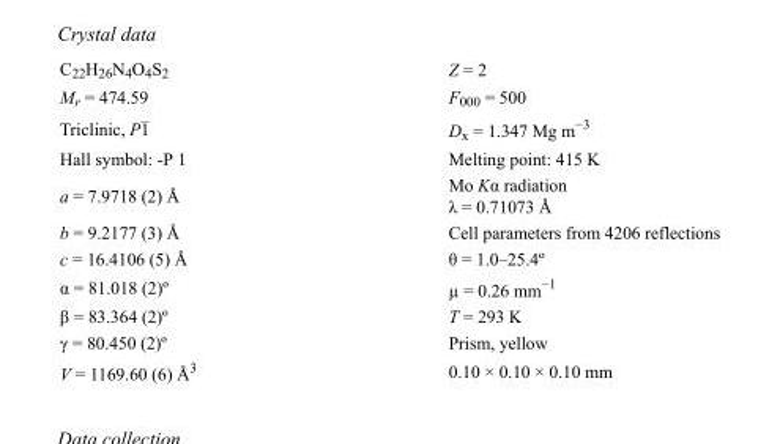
<table><tbody><tr><td>C<sub>22</sub>H<sub>26</sub>N<sub>4</sub>O<sub>4</sub>S<sub>2</sub></td><td>Z = 2</td></tr><tr><td>M<sub>r</sub> = 474.59</td><td>F000 = 500</td></tr><tr><td>Triclinic, P1</td><td>D<sub>x</sub> = 1.347 Mg m<sup>−3</sup></td></tr><tr><td>Hall symbol: -P 1</td><td>Melting point: 415 K</td></tr><tr><td>a = 7.9718 (2) Å</td><td>Mo Kα radiation λ = 0.71073 Å</td></tr><tr><td>b = 9.2177 (3) Å</td><td>Cell parameters from 4206 reflections</td></tr><tr><td>c = 16.4106 (5) Å</td><td>θ = 1.0–25.4º</td></tr><tr><td>α = 81.018 (2)º</td><td>µ = 0.26 mm<sup>−1</sup></td></tr><tr><td>β = 83.364 (2)º</td><td>T = 293 K</td></tr><tr><td>γ = 80.450 (2)º</td><td>Prism, yellow</td></tr><tr><td>V = 1169.60 (6) Å<sup>3</sup></td><td>0.10 × 0.10 × 0.10 mm</td></tr></tbody></table>